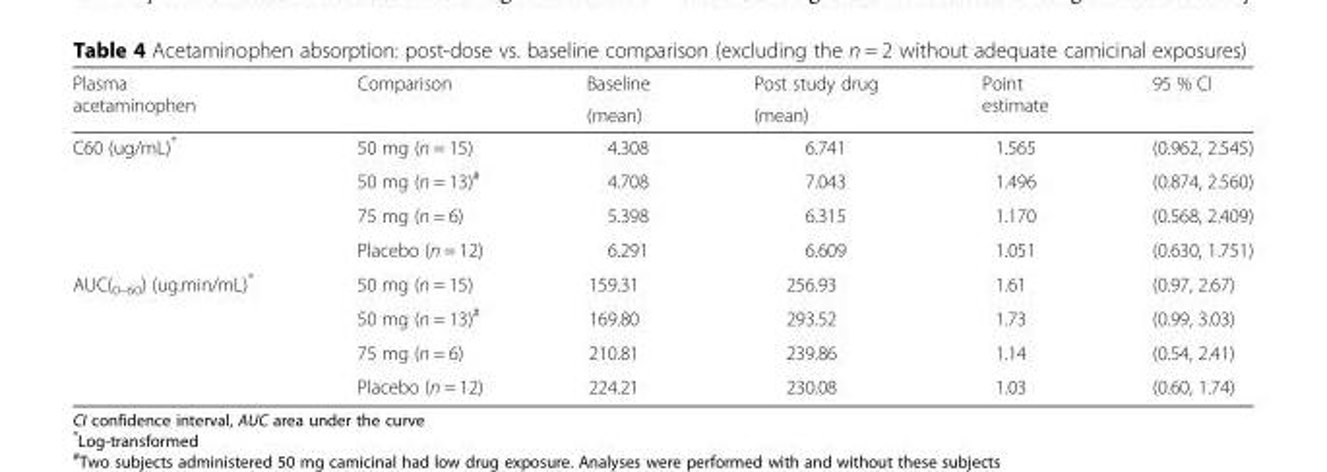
<table><thead><tr><td rowspan="2">Plasma acetaminophen</td><td rowspan="2">Comparison</td><td rowspan="2">Baseline (mean)</td><td rowspan="2">Post study drug (mean)</td><td rowspan="2">Point estimate</td><td rowspan="2">95 % CI</td></tr><tr></tr></thead><tbody><tr><td rowspan="4">C60 (ug/mL)*</td><td>50 mg (n = 15)</td><td>4.308</td><td>6.741</td><td>1.565</td><td>(0.962, 2.545)</td></tr><tr><td>50 mg (n = 13)<sup>#</sup></td><td>4.708</td><td>7.043</td><td>1.496</td><td>(0.874, 2.560)</td></tr><tr><td>75 mg (n = 6)</td><td>5.398</td><td>6.315</td><td>1.170</td><td>(0.568, 2.409)</td></tr><tr><td>Placebo (n = 12)</td><td>6.291</td><td>6.609</td><td>1.051</td><td>(0.630, 1.751)</td></tr><tr><td rowspan="4">AUC(<sub>0–60</sub>) (ug.min/mL)*</td><td>50 mg (n = 15)</td><td>159.31</td><td>256.93</td><td>1.61</td><td>(0.97, 2.67)</td></tr><tr><td>50 mg (n = 13)<sup>#</sup></td><td>169.80</td><td>293.52</td><td>1.73</td><td>(0.99, 3.03)</td></tr><tr><td>75 mg (n = 6)</td><td>210.81</td><td>239.86</td><td>1.14</td><td>(0.54, 2.41)</td></tr><tr><td>Placebo (n = 12)</td><td>224.21</td><td>230.08</td><td>1.03</td><td>(0.60, 1.74)</td></tr></tbody></table>